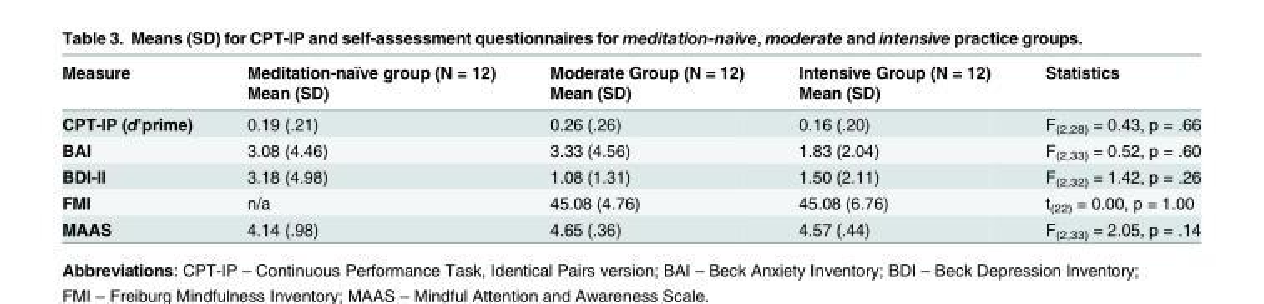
<table><thead><tr><td rowspan="2">Measure</td><td rowspan="2">Meditation-naïve group (N = 12) Mean (SD)</td><td rowspan="2">Moderate Group (N = 12) Mean (SD)</td><td rowspan="2">Intensive Group (N = 12) Mean (SD)</td><td rowspan="2">Statistics</td></tr><tr></tr></thead><tbody><tr><td>CPT-IP (d’prime)</td><td>0.19 (.21)</td><td>0.26 (.26)</td><td>0.16 (.20)</td><td>F<sub>(2,28)</sub> = 0.43, p = .66</td></tr><tr><td>BAI</td><td>3.08 (4.46)</td><td>3.33 (4.56)</td><td>1.83 (2.04)</td><td>F<sub>(2,33)</sub> = 0.52, p = .60</td></tr><tr><td>BDI-II</td><td>3.18 (4.98)</td><td>1.08 (1.31)</td><td>1.50 (2.11)</td><td>F<sub>(2,32)</sub> = 1.42, p = .26</td></tr><tr><td>FMI</td><td>n/a</td><td>45.08 (4.76)</td><td>45.08 (6.76)</td><td>t<sub>(22)</sub> = 0.00, p = 1.00</td></tr><tr><td>MAAS</td><td>4.14 (.98)</td><td>4.65 (.36)</td><td>4.57 (.44)</td><td>F<sub>(2,33)</sub> = 2.05, p = .14</td></tr></tbody></table>